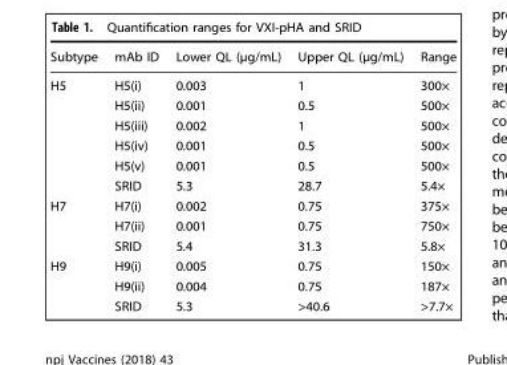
<table><thead><tr><td>Subtype</td><td>mAb ID</td><td>Lower QL (µg/mL)</td><td>Upper QL (µg/mL)</td><td>Range</td></tr></thead><tbody><tr><td rowspan="6">H5</td><td>H5(i)</td><td>0.003</td><td>1</td><td>300×</td></tr><tr><td>H5(ii)</td><td>0.001</td><td>0.5</td><td>500×</td></tr><tr><td>H5(iii)</td><td>0.002</td><td>1</td><td>500×</td></tr><tr><td>H5(iv)</td><td>0.001</td><td>0.5</td><td>500×</td></tr><tr><td>H5(v)</td><td>0.001</td><td>0.5</td><td>500×</td></tr><tr><td>SRID</td><td>5.3</td><td>28.7</td><td>5.4×</td></tr><tr><td rowspan="3">H7</td><td>H7(i)</td><td>0.002</td><td>0.75</td><td>375×</td></tr><tr><td>H7(ii)</td><td>0.001</td><td>0.75</td><td>750×</td></tr><tr><td>SRID</td><td>5.4</td><td>31.3</td><td>5.8×</td></tr><tr><td rowspan="3">H9</td><td>H9(i)</td><td>0.005</td><td>0.75</td><td>150×</td></tr><tr><td>H9(ii)</td><td>0.004</td><td>0.75</td><td>187×</td></tr><tr><td>SRID</td><td>5.3</td><td>&gt;40.6</td><td>&gt;7.7×</td></tr></tbody></table>